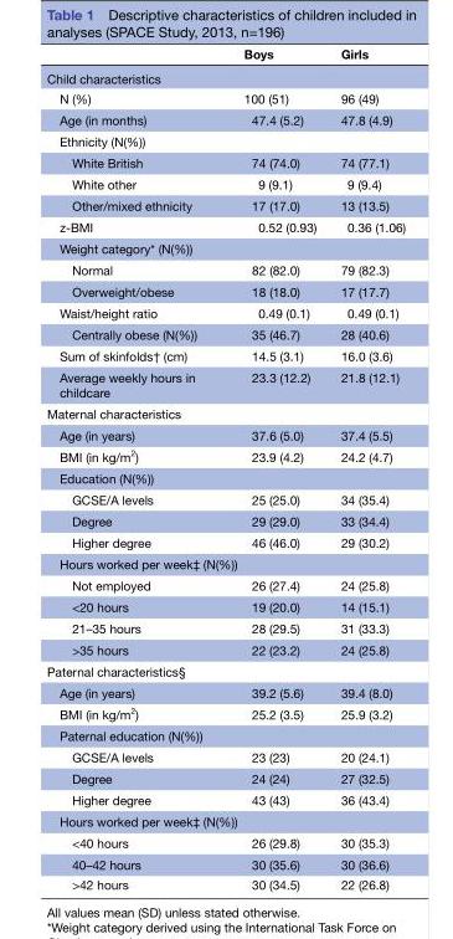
<table><thead><tr><td></td><td>Boys</td><td>Girls</td></tr></thead><tbody><tr><td colspan="3">Child characteristics</td></tr><tr><td>N (%)</td><td>100 (51)</td><td>96 (49)</td></tr><tr><td>Age (in months)</td><td>47.4 (5.2)</td><td>47.8 (4.9)</td></tr><tr><td colspan="3">Ethnicity (N(%))</td></tr><tr><td>White British</td><td>74 (74.0)</td><td>74 (77.1)</td></tr><tr><td>White other</td><td>9 (9.1)</td><td>9 (9.4)</td></tr><tr><td>Other/mixed ethnicity</td><td>17 (17.0)</td><td>13 (13.5)</td></tr><tr><td>z-BMI</td><td>0.52 (0.93)</td><td>0.36 (1.06)</td></tr><tr><td colspan="3">Weight category* (N(%))</td></tr><tr><td>Normal</td><td>82 (82.0)</td><td>79 (82.3)</td></tr><tr><td>Overweight/obese</td><td>18 (18.0)</td><td>17 (17.7)</td></tr><tr><td>Waist/height ratio</td><td>0.49 (0.1)</td><td>0.49 (0.1)</td></tr><tr><td>Centrally obese (N(%))</td><td>35 (46.7)</td><td>28 (40.6)</td></tr><tr><td>Sum of skinfolds† (cm)</td><td>14.5 (3.1)</td><td>16.0 (3.6)</td></tr><tr><td>Average weekly hours in childcare</td><td>23.3 (12.2)</td><td>21.8 (12.1)</td></tr><tr><td colspan="3">Maternal characteristics</td></tr><tr><td>Age (in years)</td><td>37.6 (5.0)</td><td>37.4 (5.5)</td></tr><tr><td>BMI (in kg/m<sup>2</sup>)</td><td>23.9 (4.2)</td><td>24.2 (4.7)</td></tr><tr><td colspan="3">Education (N(%))</td></tr><tr><td>GCSE/A levels</td><td>25 (25.0)</td><td>34 (35.4)</td></tr><tr><td>Degree</td><td>29 (29.0)</td><td>33 (34.4)</td></tr><tr><td>Higher degree</td><td>46 (46.0)</td><td>29 (30.2)</td></tr><tr><td colspan="3">Hours worked per week‡ (N(%))</td></tr><tr><td>Not employed</td><td>26 (27.4)</td><td>24 (25.8)</td></tr><tr><td>&lt;20 hours</td><td>19 (20.0)</td><td>14 (15.1)</td></tr><tr><td>21–35 hours</td><td>28 (29.5)</td><td>31 (33.3)</td></tr><tr><td>&gt;35 hours</td><td>22 (23.2)</td><td>24 (25.8)</td></tr><tr><td colspan="3">Paternal characteristics§</td></tr><tr><td>Age (in years)</td><td>39.2 (5.6)</td><td>39.4 (8.0)</td></tr><tr><td>BMI (in kg/m<sup>2</sup>)</td><td>25.2 (3.5)</td><td>25.9 (3.2)</td></tr><tr><td colspan="3">Paternal education (N(%))</td></tr><tr><td>GCSE/A levels</td><td>23 (23)</td><td>20 (24.1)</td></tr><tr><td>Degree</td><td>24 (24)</td><td>27 (32.5)</td></tr><tr><td>Higher degree</td><td>43 (43)</td><td>36 (43.4)</td></tr><tr><td colspan="3">Hours worked per week‡ (N(%))</td></tr><tr><td>&lt;40 hours</td><td>26 (29.8)</td><td>30 (35.3)</td></tr><tr><td>40–42 hours</td><td>30 (35.6)</td><td>30 (36.6)</td></tr><tr><td>&gt;42 hours</td><td>30 (34.5)</td><td>22 (26.8)</td></tr></tbody></table>